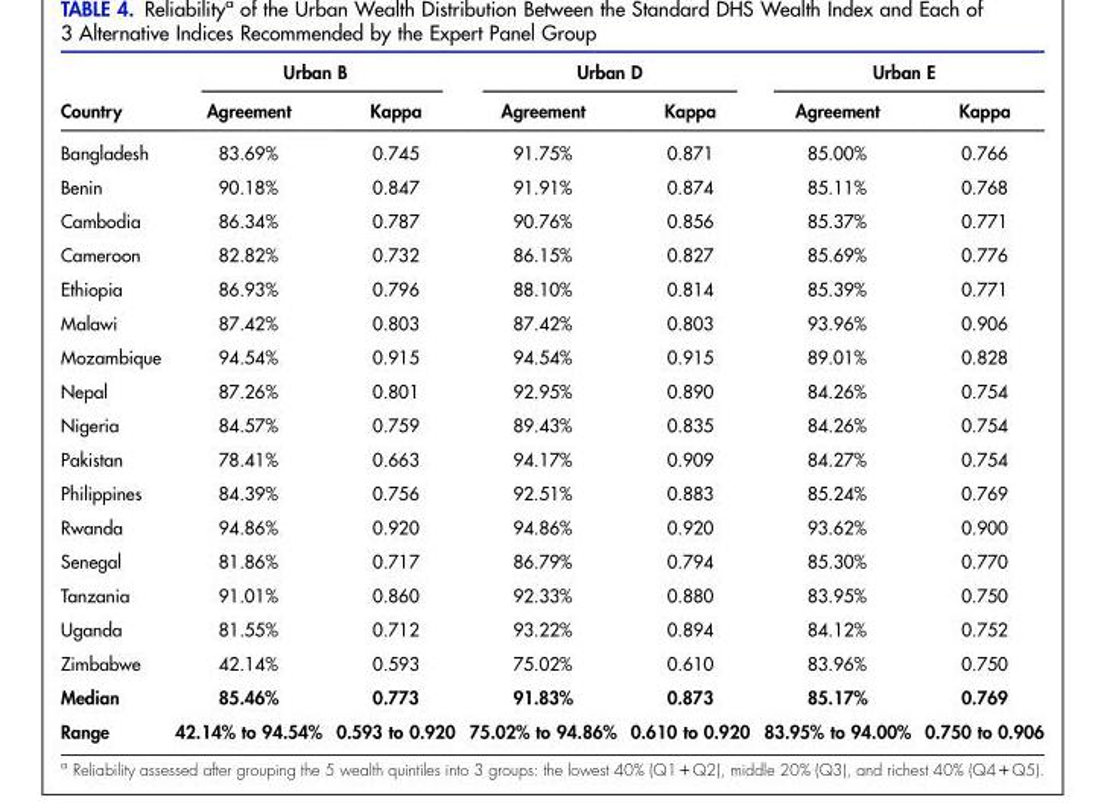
<table><thead><tr><td rowspan="2">Country</td><td colspan="2">Urban B</td><td colspan="2">Urban D</td><td colspan="2">Urban E</td></tr><tr><td>Agreement</td><td>Kappa</td><td>Agreement</td><td>Kappa</td><td>Agreement</td><td>Kappa</td></tr></thead><tbody><tr><td>Bangladesh</td><td>83.69%</td><td>0.745</td><td>91.75%</td><td>0.871</td><td>85.00%</td><td>0.766</td></tr><tr><td>Benin</td><td>90.18%</td><td>0.847</td><td>91.91%</td><td>0.874</td><td>85.11%</td><td>0.768</td></tr><tr><td>Cambodia</td><td>86.34%</td><td>0.787</td><td>90.76%</td><td>0.856</td><td>85.37%</td><td>0.771</td></tr><tr><td>Cameroon</td><td>82.82%</td><td>0.732</td><td>86.15%</td><td>0.827</td><td>85.69%</td><td>0.776</td></tr><tr><td>Ethiopia</td><td>86.93%</td><td>0.796</td><td>88.10%</td><td>0.814</td><td>85.39%</td><td>0.771</td></tr><tr><td>Malawi</td><td>87.42%</td><td>0.803</td><td>87.42%</td><td>0.803</td><td>93.96%</td><td>0.906</td></tr><tr><td>Mozambique</td><td>94.54%</td><td>0.915</td><td>94.54%</td><td>0.915</td><td>89.01%</td><td>0.828</td></tr><tr><td>Nepal</td><td>87.26%</td><td>0.801</td><td>92.95%</td><td>0.890</td><td>84.26%</td><td>0.754</td></tr><tr><td>Nigeria</td><td>84.57%</td><td>0.759</td><td>89.43%</td><td>0.835</td><td>84.26%</td><td>0.754</td></tr><tr><td>Pakistan</td><td>78.41%</td><td>0.663</td><td>94.17%</td><td>0.909</td><td>84.27%</td><td>0.754</td></tr><tr><td>Philippines</td><td>84.39%</td><td>0.756</td><td>92.51%</td><td>0.883</td><td>85.24%</td><td>0.769</td></tr><tr><td>Rwanda</td><td>94.86%</td><td>0.920</td><td>94.86%</td><td>0.920</td><td>93.62%</td><td>0.900</td></tr><tr><td>Senegal</td><td>81.86%</td><td>0.717</td><td>86.79%</td><td>0.794</td><td>85.30%</td><td>0.770</td></tr><tr><td>Tanzania</td><td>91.01%</td><td>0.860</td><td>92.33%</td><td>0.880</td><td>83.95%</td><td>0.750</td></tr><tr><td>Uganda</td><td>81.55%</td><td>0.712</td><td>93.22%</td><td>0.894</td><td>84.12%</td><td>0.752</td></tr><tr><td>Zimbabwe</td><td>42.14%</td><td>0.593</td><td>75.02%</td><td>0.610</td><td>83.96%</td><td>0.750</td></tr><tr><td>Median</td><td>85.46%</td><td>0.773</td><td>91.83%</td><td>0.873</td><td>85.17%</td><td>0.769</td></tr><tr><td>Range</td><td>42.14% to 94.54%</td><td>0.593 to 0.920</td><td>75.02% to 94.86%</td><td>0.610 to 0.920</td><td>83.95% to 94.00%</td><td>0.750 to 0.906</td></tr></tbody></table>